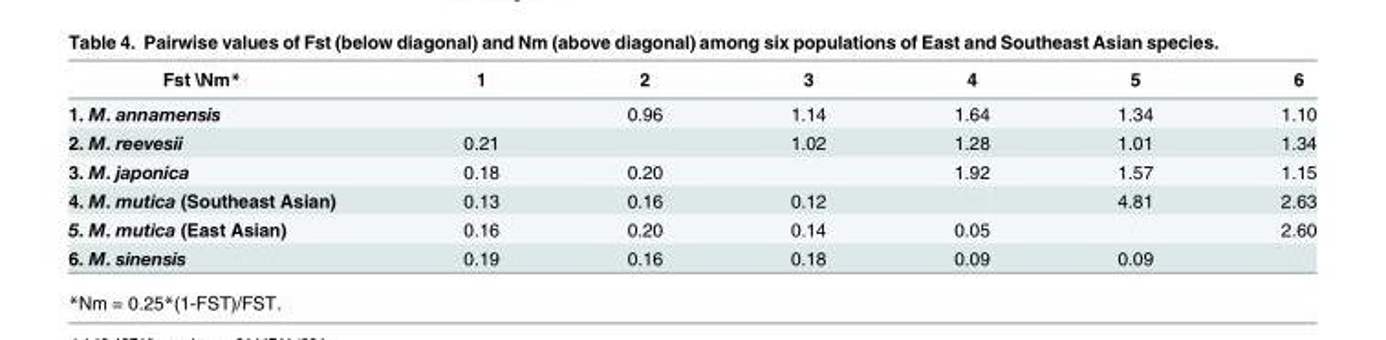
<table><thead><tr><td>Fst \Nm*</td><td>1</td><td>2</td><td>3</td><td>4</td><td>5</td><td>6</td></tr></thead><tbody><tr><td>1. M. annamensis</td><td></td><td>0.96</td><td>1.14</td><td>1.64</td><td>1.34</td><td>1.10</td></tr><tr><td>2. M. reevesii</td><td>0.21</td><td></td><td>1.02</td><td>1.28</td><td>1.01</td><td>1.34</td></tr><tr><td>3. M. japonica</td><td>0.18</td><td>0.20</td><td></td><td>1.92</td><td>1.57</td><td>1.15</td></tr><tr><td>4. M. mutica (Southeast Asian)</td><td>0.13</td><td>0.16</td><td>0.12</td><td></td><td>4.81</td><td>2.63</td></tr><tr><td>5. M. mutica (East Asian)</td><td>0.16</td><td>0.20</td><td>0.14</td><td>0.05</td><td></td><td>2.60</td></tr><tr><td>6. M. sinensis</td><td>0.19</td><td>0.16</td><td>0.18</td><td>0.09</td><td>0.09</td><td></td></tr></tbody></table>